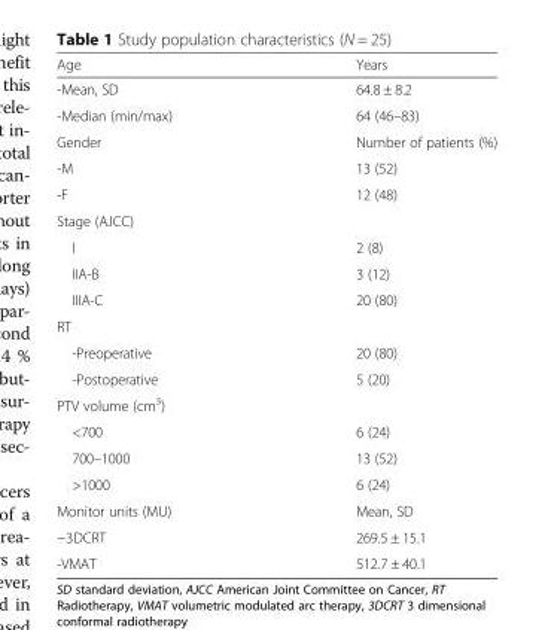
<table><thead><tr><td>Age</td><td>Years</td></tr></thead><tbody><tr><td>-Mean, SD</td><td>64.8 ± 8.2</td></tr><tr><td>-Median (min/max)</td><td>64 (46–83)</td></tr><tr><td>Gender</td><td>Number of patients (%)</td></tr><tr><td>-M</td><td>13 (52)</td></tr><tr><td>-F</td><td>12 (48)</td></tr><tr><td colspan="2">Stage (AJCC)</td></tr><tr><td>I</td><td>2 (8)</td></tr><tr><td>IIA-B</td><td>3 (12)</td></tr><tr><td>IIIA-C</td><td>20 (80)</td></tr><tr><td colspan="2">RT</td></tr><tr><td>-Preoperative</td><td>20 (80)</td></tr><tr><td>-Postoperative</td><td>5 (20)</td></tr><tr><td colspan="2">PTV volume (cm<sup>3</sup>)</td></tr><tr><td>&lt;700</td><td>6 (24)</td></tr><tr><td>700–1000</td><td>13 (52)</td></tr><tr><td>&gt;1000</td><td>6 (24)</td></tr><tr><td>Monitor units (MU)</td><td>Mean, SD</td></tr><tr><td>−3DCRT</td><td>269.5 ± 15.1</td></tr><tr><td>-VMAT</td><td>512.7 ± 40.1</td></tr></tbody></table>